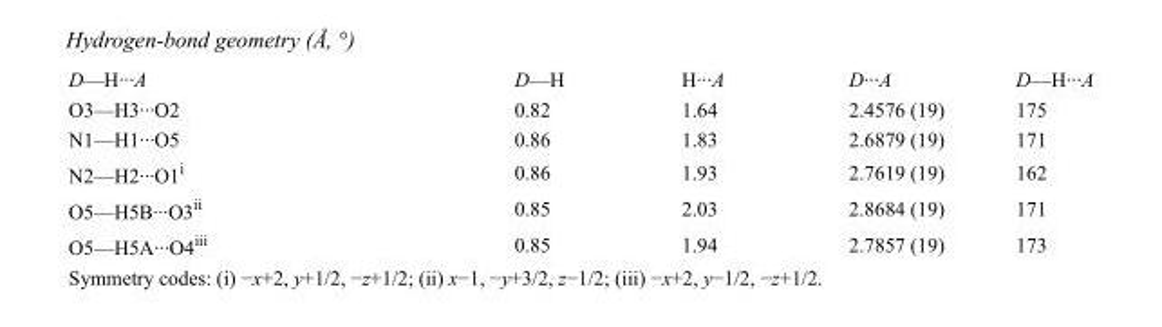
<table><tbody><tr><td>D—H···A</td><td>D—H</td><td>H···A</td><td>D···A</td><td>D—H···A</td></tr><tr><td>O3—H3···O2</td><td>0.82</td><td>1.64</td><td>2.4576 (19)</td><td>175</td></tr><tr><td>N1—H1···O5</td><td>0.86</td><td>1.83</td><td>2.6879 (19)</td><td>171</td></tr><tr><td>N2—H2···O1<sup>i</sup></td><td>0.86</td><td>1.93</td><td>2.7619 (19)</td><td>162</td></tr><tr><td>O5—H5B···O3<sup>ii</sup></td><td>0.85</td><td>2.03</td><td>2.8684 (19)</td><td>171</td></tr><tr><td>O5—H5A···O4<sup>iii</sup></td><td>0.85</td><td>1.94</td><td>2.7857 (19)</td><td>173</td></tr></tbody></table>